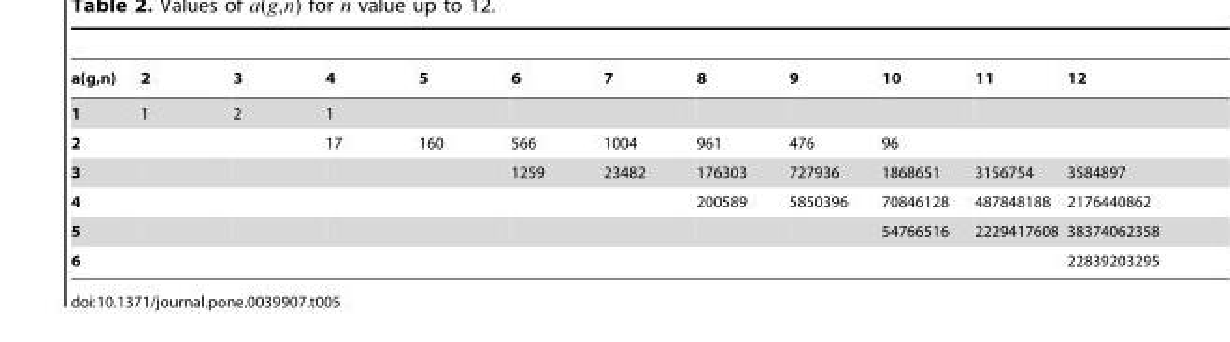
<table><thead><tr><td>a(g,n)</td><td>2</td><td>3</td><td>4</td><td>5</td><td>6</td><td>7</td><td>8</td><td>9</td><td>10</td><td>11</td><td>12</td></tr></thead><tbody><tr><td>1</td><td>1</td><td>2</td><td>1</td><td></td><td></td><td></td><td></td><td></td><td></td><td></td><td></td></tr><tr><td>2</td><td></td><td></td><td>17</td><td>160</td><td>566</td><td>1004</td><td>961</td><td>476</td><td>96</td><td></td><td></td></tr><tr><td>3</td><td></td><td></td><td></td><td></td><td>1259</td><td>23482</td><td>176303</td><td>727936</td><td>1868651</td><td>3156754</td><td>3584897</td></tr><tr><td>4</td><td></td><td></td><td></td><td></td><td></td><td></td><td>200589</td><td>5850396</td><td>70846128</td><td>487848188</td><td>2176440862</td></tr><tr><td>5</td><td></td><td></td><td></td><td></td><td></td><td></td><td></td><td></td><td>54766516</td><td>2229417608</td><td>38374062358</td></tr><tr><td>6</td><td></td><td></td><td></td><td></td><td></td><td></td><td></td><td></td><td></td><td></td><td>22839203295</td></tr></tbody></table>